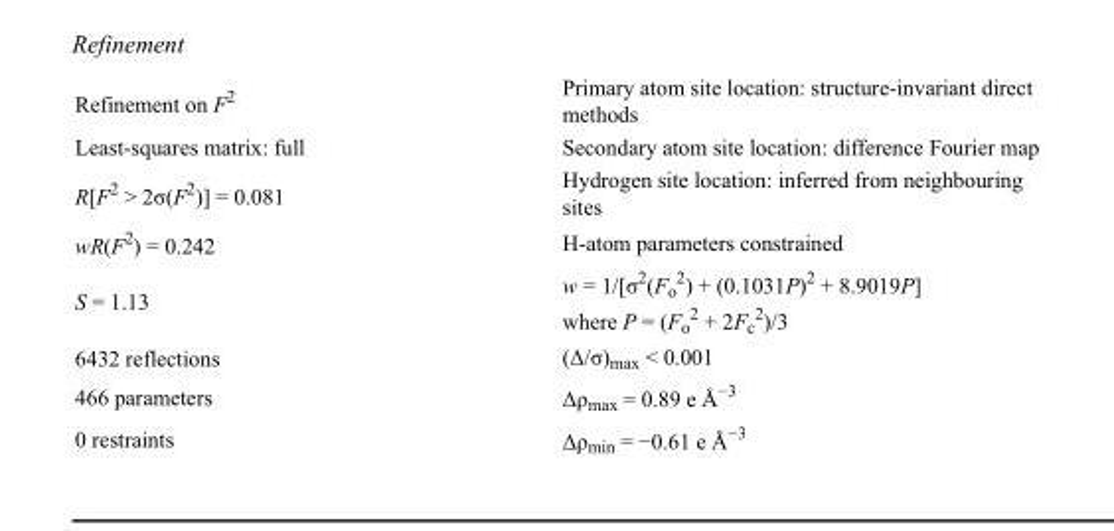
<table><tbody><tr><td>Refinement on F<sup>2</sup></td><td>Primary atom site location: structure-invariant direct methods</td></tr><tr><td>Least-squares matrix: full</td><td>Secondary atom site location: difference Fourier map</td></tr><tr><td>R[F<sup>2</sup> &gt; 2σ(F<sup>2</sup>)] = 0.081</td><td>Hydrogen site location: inferred from neighbouring sites</td></tr><tr><td>wR(F<sup>2</sup>) = 0.242</td><td>H-atom parameters constrained</td></tr><tr><td>S = 1.13</td><td>w = 1/[σ<sup>2</sup>(F<sub>o</sub> <sup>2</sup>) + (0.1031P)<sup>2</sup> + 8.9019P] where P = (F<sub>o</sub> <sup>2</sup> + 2F<sub>c</sub> <sup>2</sup>)/3</td></tr><tr><td>6432 reflections</td><td>(Δ/σ)<sub>max</sub> &lt; 0.001</td></tr><tr><td>466 parameters</td><td>Δρ<sub>max</sub> = 0.89 e Å<sup>−3</sup></td></tr><tr><td>0 restraints</td><td>Δρ<sub>min</sub> = −0.61 e Å<sup>−3</sup></td></tr></tbody></table>